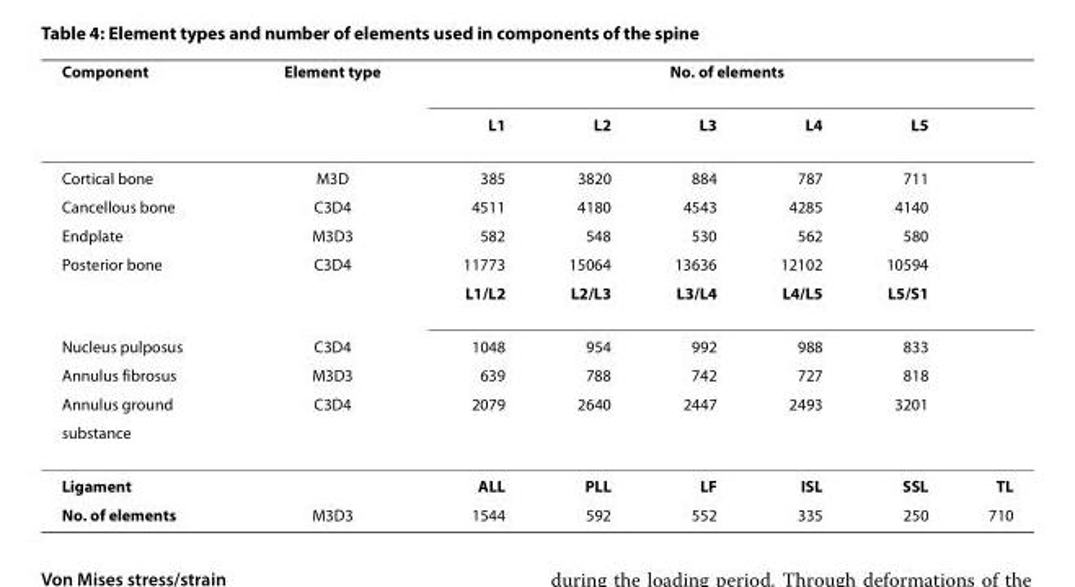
<table><thead><tr><td rowspan="2">Component</td><td rowspan="2">Element type</td><td colspan="6">No. of elements</td></tr><tr><td>L1</td><td>L2</td><td>L3</td><td>L4</td><td>L5</td><td></td></tr></thead><tbody><tr><td>Cortical bone</td><td>M3D</td><td>385</td><td>3820</td><td>884</td><td>787</td><td>711</td><td></td></tr><tr><td>Cancellous bone</td><td>C3D4</td><td>4511</td><td>4180</td><td>4543</td><td>4285</td><td>4140</td><td></td></tr><tr><td>Endplate</td><td>M3D3</td><td>582</td><td>548</td><td>530</td><td>562</td><td>580</td><td></td></tr><tr><td rowspan="2">Posterior bone</td><td>C3D4</td><td>11773</td><td>15064</td><td>13636</td><td>12102</td><td>10594</td><td></td></tr><tr><td></td><td>L1/L2</td><td>L2/L3</td><td>L3/L4</td><td>L4/L5</td><td>L5/S1</td><td></td></tr><tr><td>Nucleus pulposus</td><td>C3D4</td><td>1048</td><td>954</td><td>992</td><td>988</td><td>833</td><td></td></tr><tr><td>Annulus fibrosus</td><td>M3D3</td><td>639</td><td>788</td><td>742</td><td>727</td><td>818</td><td></td></tr><tr><td>Annulus ground</td><td>C3D4</td><td>2079</td><td>2640</td><td>2447</td><td>2493</td><td>3201</td><td></td></tr><tr><td colspan="8">substance</td></tr><tr><td>Ligament</td><td></td><td>ALL</td><td>PLL</td><td>LF</td><td>ISL</td><td>SSL</td><td>TL</td></tr><tr><td>No. of elements</td><td>M3D3</td><td>1544</td><td>592</td><td>552</td><td>335</td><td>250</td><td>710</td></tr></tbody></table>